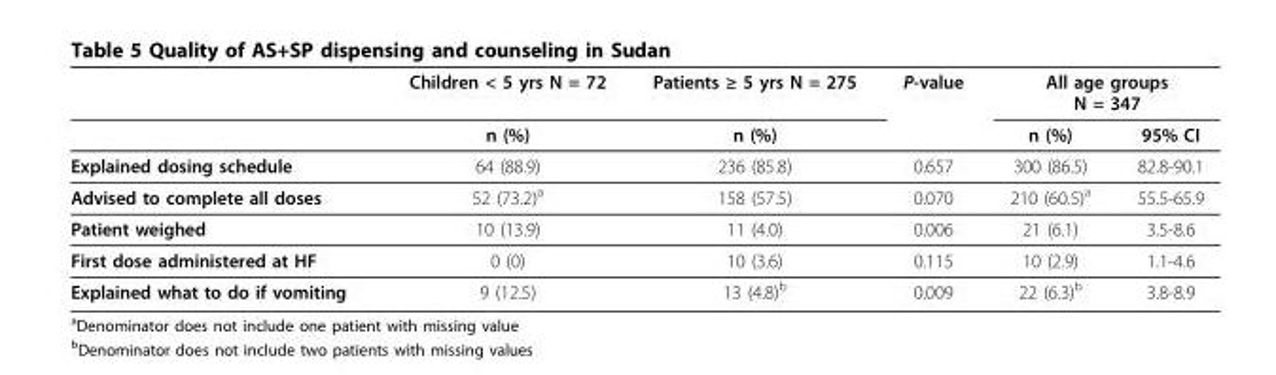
<table><thead><tr><td rowspan="2"></td><td rowspan="2">Children &lt; 5 yrs N = 72 n (%)</td><td rowspan="2">Patients ≥ 5 yrs N = 275 n (%)</td><td rowspan="2">P-value</td><td colspan="2">All age groups N = 347</td></tr><tr><td>n (%)</td><td>95% CI</td></tr></thead><tbody><tr><td>Explained dosing schedule</td><td>64 (88.9)</td><td>236 (85.8)</td><td>0.657</td><td>300 (86.5)</td><td>82.8-90.1</td></tr><tr><td>Advised to complete all doses</td><td>52 (73.2)<sup>a</sup></td><td>158 (57.5)</td><td>0.070</td><td>210 (60.5)<sup>a</sup></td><td>55.5-65.9</td></tr><tr><td>Patient weighed</td><td>10 (13.9)</td><td>11 (4.0)</td><td>0.006</td><td>21 (6.1)</td><td>3.5-8.6</td></tr><tr><td>First dose administered at HF</td><td>0 (0)</td><td>10 (3.6)</td><td>0.115</td><td>10 (2.9)</td><td>1.1-4.6</td></tr><tr><td>Explained what to do if vomiting</td><td>9 (12.5)</td><td>13 (4.8)<sup>b</sup></td><td>0.009</td><td>22 (6.3)<sup>b</sup></td><td>3.8-8.9</td></tr></tbody></table>